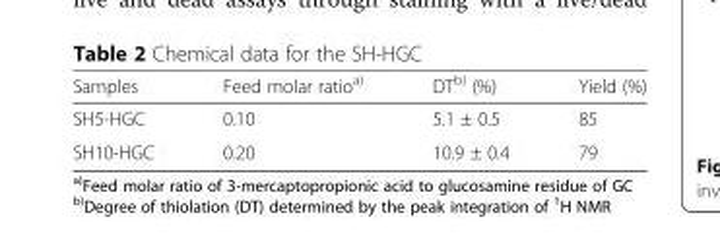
<table><thead><tr><td>Samples</td><td>Feed molar ratio<sup>a)</sup></td><td>DT<sup>b)</sup> (%)</td><td>Yield (%)</td></tr></thead><tbody><tr><td>SH5-HGC</td><td>0.10</td><td>5.1 ± 0.5</td><td>85</td></tr><tr><td>SH10-HGC</td><td>0.20</td><td>10.9 ± 0.4</td><td>79</td></tr></tbody></table>